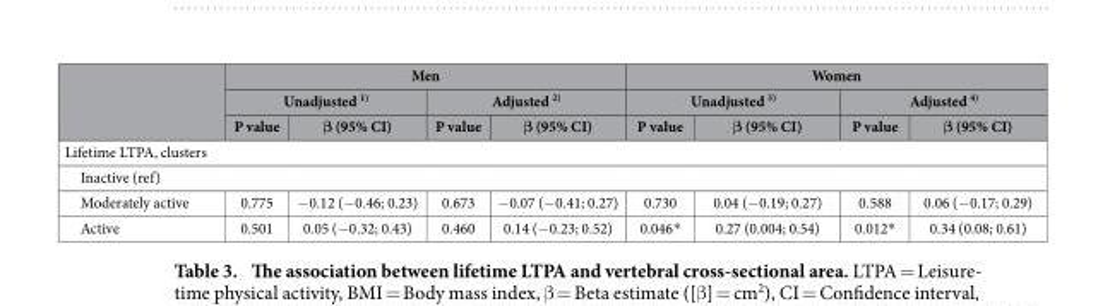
<table><thead><tr><td rowspan="3"></td><td colspan="4">Men</td><td colspan="4">Women</td></tr><tr><td colspan="2">Unadjusted <sup>1)</sup></td><td colspan="2">Adjusted <sup>2)</sup></td><td colspan="2">Unadjusted <sup>3)</sup></td><td colspan="2">Adjusted <sup>4)</sup></td></tr><tr><td>P value</td><td>β (95% CI)</td><td>P value</td><td>β (95% CI)</td><td>P value</td><td>β (95% CI)</td><td>P value</td><td>β (95% CI)</td></tr></thead><tbody><tr><td colspan="9">Lifetime LTPA, clusters</td></tr><tr><td colspan="9">Inactive (ref)</td></tr><tr><td>Moderately active</td><td>0.775</td><td>− 0.12 (− 0.46; 0.23)</td><td>0.673</td><td>− 0.07 (− 0.41; 0.27)</td><td>0.730</td><td>0.04 (− 0.19; 0.27)</td><td>0.588</td><td>0.06 (− 0.17; 0.29)</td></tr><tr><td>Active</td><td>0.501</td><td>0.05 (− 0.32; 0.43)</td><td>0.460</td><td>0.14 (− 0.23; 0.52)</td><td>0.046*</td><td>0.27 (0.004; 0.54)</td><td>0.012*</td><td>0.34 (0.08; 0.61)</td></tr></tbody></table>